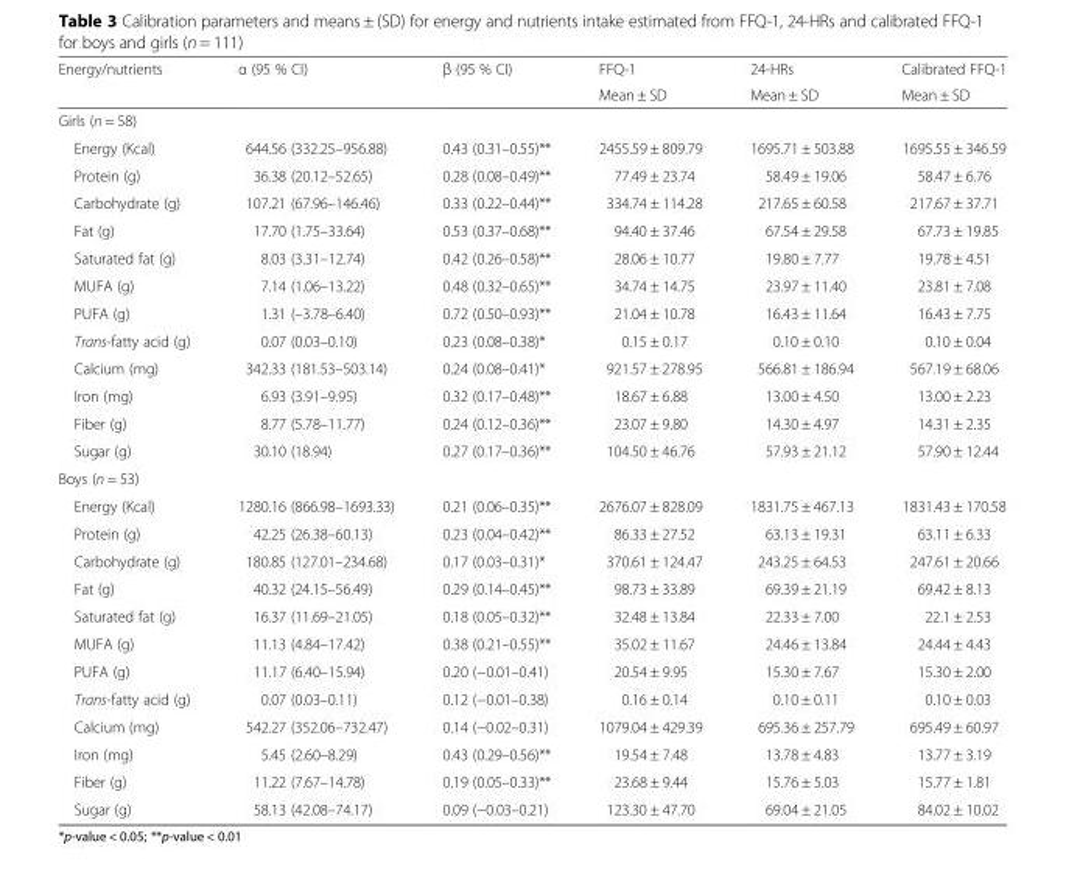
<table><thead><tr><td rowspan="2">Energy/nutrients</td><td rowspan="2">α (95 % CI)</td><td rowspan="2">β (95 % CI)</td><td rowspan="2">FFQ-1 Mean ± SD</td><td rowspan="2">24-HRs Mean ± SD</td><td rowspan="2">Calibrated FFQ-1 Mean ± SD</td></tr><tr></tr></thead><tbody><tr><td colspan="6">Girls (n = 58)</td></tr><tr><td>Energy (Kcal)</td><td>644.56 (332.25–956.88)</td><td>0.43 (0.31–0.55)**</td><td>2455.59 ± 809.79</td><td>1695.71 ± 503.88</td><td>1695.55 ± 346.59</td></tr><tr><td>Protein (g)</td><td>36.38 (20.12–52.65)</td><td>0.28 (0.08–0.49)**</td><td>77.49 ± 23.74</td><td>58.49 ± 19.06</td><td>58.47 ± 6.76</td></tr><tr><td>Carbohydrate (g)</td><td>107.21 (67.96–146.46)</td><td>0.33 (0.22–0.44)**</td><td>334.74 ± 114.28</td><td>217.65 ± 60.58</td><td>217.67 ± 37.71</td></tr><tr><td>Fat (g)</td><td>17.70 (1.75–33.64)</td><td>0.53 (0.37–0.68)**</td><td>94.40 ± 37.46</td><td>67.54 ± 29.58</td><td>67.73 ± 19.85</td></tr><tr><td>Saturated fat (g)</td><td>8.03 (3.31–12.74)</td><td>0.42 (0.26–0.58)**</td><td>28.06 ± 10.77</td><td>19.80 ± 7.77</td><td>19.78 ± 4.51</td></tr><tr><td>MUFA (g)</td><td>7.14 (1.06–13.22)</td><td>0.48 (0.32–0.65)**</td><td>34.74 ± 14.75</td><td>23.97 ± 11.40</td><td>23.81 ± 7.08</td></tr><tr><td>PUFA (g)</td><td>1.31 (–3.78–6.40)</td><td>0.72 (0.50–0.93)**</td><td>21.04 ± 10.78</td><td>16.43 ± 11.64</td><td>16.43 ± 7.75</td></tr><tr><td>Trans-fatty acid (g)</td><td>0.07 (0.03–0.10)</td><td>0.23 (0.08–0.38)*</td><td>0.15 ± 0.17</td><td>0.10 ± 0.10</td><td>0.10 ± 0.04</td></tr><tr><td>Calcium (mg)</td><td>342.33 (181.53–503.14)</td><td>0.24 (0.08–0.41)*</td><td>921.57 ± 278.95</td><td>566.81 ± 186.94</td><td>567.19 ± 68.06</td></tr><tr><td>Iron (mg)</td><td>6.93 (3.91–9.95)</td><td>0.32 (0.17–0.48)**</td><td>18.67 ± 6.88</td><td>13.00 ± 4.50</td><td>13.00 ± 2.23</td></tr><tr><td>Fiber (g)</td><td>8.77 (5.78–11.77)</td><td>0.24 (0.12–0.36)**</td><td>23.07 ± 9.80</td><td>14.30 ± 4.97</td><td>14.31 ± 2.35</td></tr><tr><td>Sugar (g)</td><td>30.10 (18.94)</td><td>0.27 (0.17–0.36)**</td><td>104.50 ± 46.76</td><td>57.93 ± 21.12</td><td>57.90 ± 12.44</td></tr><tr><td colspan="6">Boys (n = 53)</td></tr><tr><td>Energy (Kcal)</td><td>1280.16 (866.98–1693.33)</td><td>0.21 (0.06–0.35)**</td><td>2676.07 ± 828.09</td><td>1831.75 ± 467.13</td><td>1831.43 ± 170.58</td></tr><tr><td>Protein (g)</td><td>42.25 (26.38–60.13)</td><td>0.23 (0.04–0.42)**</td><td>86.33 ± 27.52</td><td>63.13 ± 19.31</td><td>63.11 ± 6.33</td></tr><tr><td>Carbohydrate (g)</td><td>180.85 (127.01–234.68)</td><td>0.17 (0.03–0.31)*</td><td>370.61 ± 124.47</td><td>243.25 ± 64.53</td><td>247.61 ± 20.66</td></tr><tr><td>Fat (g)</td><td>40.32 (24.15–56.49)</td><td>0.29 (0.14–0.45)**</td><td>98.73 ± 33.89</td><td>69.39 ± 21.19</td><td>69.42 ± 8.13</td></tr><tr><td>Saturated fat (g)</td><td>16.37 (11.69–21.05)</td><td>0.18 (0.05–0.32)**</td><td>32.48 ± 13.84</td><td>22.33 ± 7.00</td><td>22.1 ± 2.53</td></tr><tr><td>MUFA (g)</td><td>11.13 (4.84–17.42)</td><td>0.38 (0.21–0.55)**</td><td>35.02 ± 11.67</td><td>24.46 ± 13.84</td><td>24.44 ± 4.43</td></tr><tr><td>PUFA (g)</td><td>11.17 (6.40–15.94)</td><td>0.20 (−0.01–0.41)</td><td>20.54 ± 9.95</td><td>15.30 ± 7.67</td><td>15.30 ± 2.00</td></tr><tr><td>Trans-fatty acid (g)</td><td>0.07 (0.03–0.11)</td><td>0.12 (−0.01–0.38)</td><td>0.16 ± 0.14</td><td>0.10 ± 0.11</td><td>0.10 ± 0.03</td></tr><tr><td>Calcium (mg)</td><td>542.27 (352.06–732.47)</td><td>0.14 (−0.02–0.31)</td><td>1079.04 ± 429.39</td><td>695.36 ± 257.79</td><td>695.49 ± 60.97</td></tr><tr><td>Iron (mg)</td><td>5.45 (2.60–8.29)</td><td>0.43 (0.29–0.56)**</td><td>19.54 ± 7.48</td><td>13.78 ± 4.83</td><td>13.77 ± 3.19</td></tr><tr><td>Fiber (g)</td><td>11.22 (7.67–14.78)</td><td>0.19 (0.05–0.33)**</td><td>23.68 ± 9.44</td><td>15.76 ± 5.03</td><td>15.77 ± 1.81</td></tr><tr><td>Sugar (g)</td><td>58.13 (42.08–74.17)</td><td>0.09 (−0.03–0.21)</td><td>123.30 ± 47.70</td><td>69.04 ± 21.05</td><td>84.02 ± 10.02</td></tr></tbody></table>